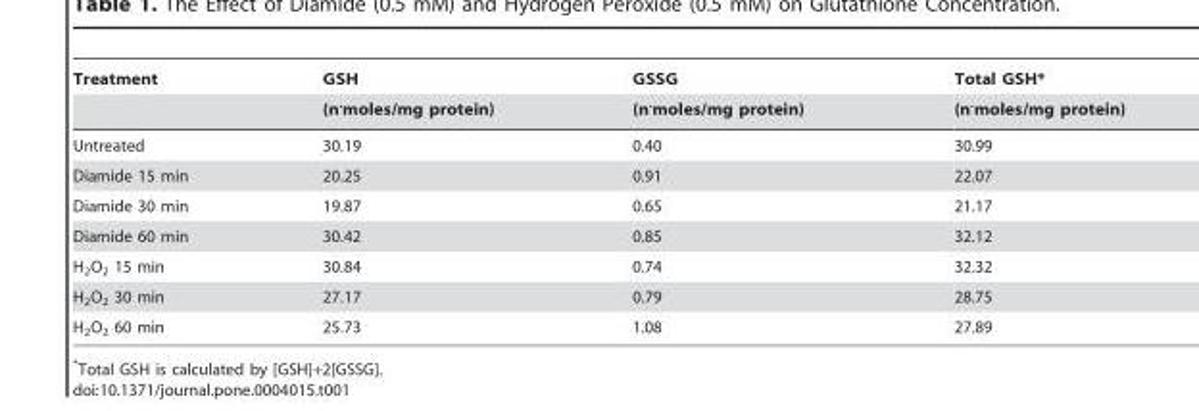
<table><thead><tr><td rowspan="2">Treatment</td><td rowspan="2">GSH (n<sup>.</sup>moles/mg protein)</td><td rowspan="2">GSSG (n<sup>.</sup>moles/mg protein)</td><td rowspan="2">Total GSH* (n<sup>.</sup>moles/mg protein)</td></tr><tr></tr></thead><tbody><tr><td>Untreated</td><td>30.19</td><td>0.40</td><td>30.99</td></tr><tr><td>Diamide 15 min</td><td>20.25</td><td>0.91</td><td>22.07</td></tr><tr><td>Diamide 30 min</td><td>19.87</td><td>0.65</td><td>21.17</td></tr><tr><td>Diamide 60 min</td><td>30.42</td><td>0.85</td><td>32.12</td></tr><tr><td>H<sub>2</sub>O<sub>2</sub> 15 min</td><td>30.84</td><td>0.74</td><td>32.32</td></tr><tr><td>H<sub>2</sub>O<sub>2</sub> 30 min</td><td>27.17</td><td>0.79</td><td>28.75</td></tr><tr><td>H<sub>2</sub>O<sub>2</sub> 60 min</td><td>25.73</td><td>1.08</td><td>27.89</td></tr></tbody></table>